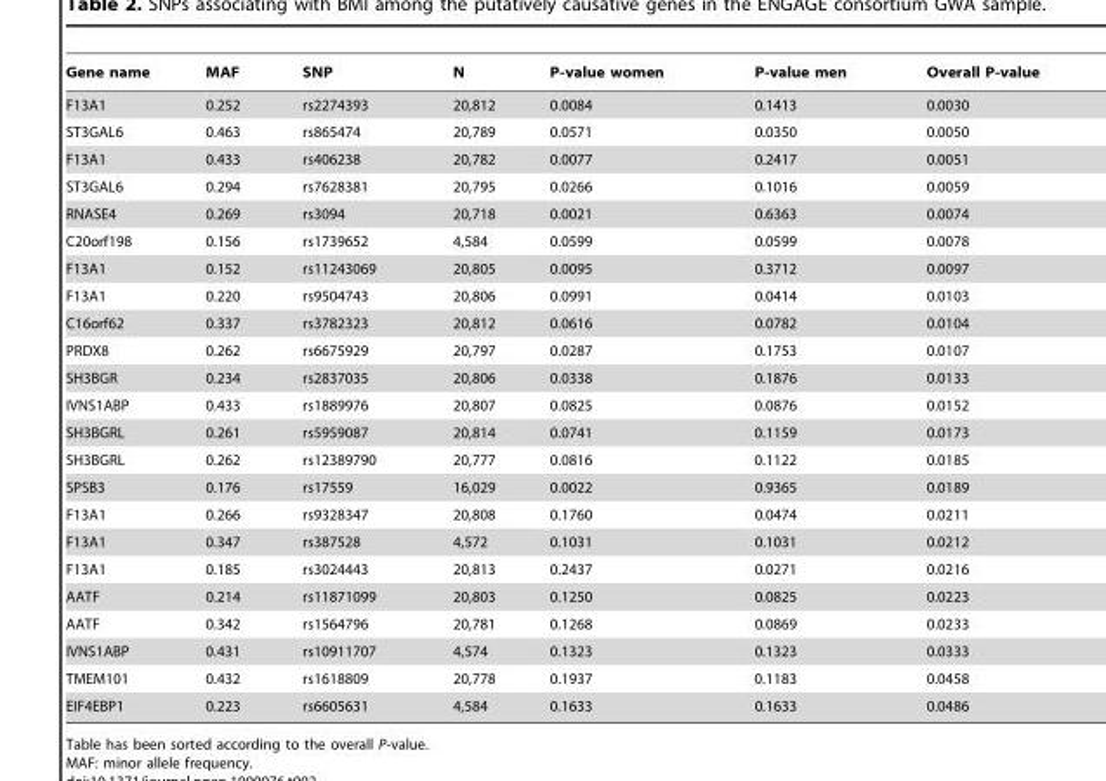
<table><thead><tr><td>Gene name</td><td>MAF</td><td>SNP</td><td>N</td><td>P-value women</td><td>P-value men</td><td>Overall P-value</td></tr></thead><tbody><tr><td>F13A1</td><td>0.252</td><td>rs2274393</td><td>20,812</td><td>0.0084</td><td>0.1413</td><td>0.0030</td></tr><tr><td>ST3GAL6</td><td>0.463</td><td>rs865474</td><td>20,789</td><td>0.0571</td><td>0.0350</td><td>0.0050</td></tr><tr><td>F13A1</td><td>0.433</td><td>rs406238</td><td>20,782</td><td>0.0077</td><td>0.2417</td><td>0.0051</td></tr><tr><td>ST3GAL6</td><td>0.294</td><td>rs7628381</td><td>20,795</td><td>0.0266</td><td>0.1016</td><td>0.0059</td></tr><tr><td>RNASE4</td><td>0.269</td><td>rs3094</td><td>20,718</td><td>0.0021</td><td>0.6363</td><td>0.0074</td></tr><tr><td>C20orf198</td><td>0.156</td><td>rs1739652</td><td>4,584</td><td>0.0599</td><td>0.0599</td><td>0.0078</td></tr><tr><td>F13A1</td><td>0.152</td><td>rs11243069</td><td>20,805</td><td>0.0095</td><td>0.3712</td><td>0.0097</td></tr><tr><td>F13A1</td><td>0.220</td><td>rs9504743</td><td>20,806</td><td>0.0991</td><td>0.0414</td><td>0.0103</td></tr><tr><td>C16orf62</td><td>0.337</td><td>rs3782323</td><td>20,812</td><td>0.0616</td><td>0.0782</td><td>0.0104</td></tr><tr><td>PRDX8</td><td>0.262</td><td>rs6675929</td><td>20,797</td><td>0.0287</td><td>0.1753</td><td>0.0107</td></tr><tr><td>SH3BGR</td><td>0.234</td><td>rs2837035</td><td>20,806</td><td>0.0338</td><td>0.1876</td><td>0.0133</td></tr><tr><td>IVNS1ABP</td><td>0.433</td><td>rs1889976</td><td>20,807</td><td>0.0825</td><td>0.0876</td><td>0.0152</td></tr><tr><td>SH3BGRL</td><td>0.261</td><td>rs5959087</td><td>20,814</td><td>0.0741</td><td>0.1159</td><td>0.0173</td></tr><tr><td>SH3BGRL</td><td>0.262</td><td>rs12389790</td><td>20,777</td><td>0.0816</td><td>0.1122</td><td>0.0185</td></tr><tr><td>SPSB3</td><td>0.176</td><td>rs17559</td><td>16,029</td><td>0.0022</td><td>0.9365</td><td>0.0189</td></tr><tr><td>F13A1</td><td>0.266</td><td>rs9328347</td><td>20,808</td><td>0.1760</td><td>0.0474</td><td>0.0211</td></tr><tr><td>F13A1</td><td>0.347</td><td>rs387528</td><td>4,572</td><td>0.1031</td><td>0.1031</td><td>0.0212</td></tr><tr><td>F13A1</td><td>0.185</td><td>rs3024443</td><td>20,813</td><td>0.2437</td><td>0.0271</td><td>0.0216</td></tr><tr><td>AATF</td><td>0.214</td><td>rs11871099</td><td>20,803</td><td>0.1250</td><td>0.0825</td><td>0.0223</td></tr><tr><td>AATF</td><td>0.342</td><td>rs1564796</td><td>20,781</td><td>0.1268</td><td>0.0869</td><td>0.0233</td></tr><tr><td>IVNS1ABP</td><td>0.431</td><td>rs10911707</td><td>4,574</td><td>0.1323</td><td>0.1323</td><td>0.0333</td></tr><tr><td>TMEM101</td><td>0.432</td><td>rs1618809</td><td>20,778</td><td>0.1937</td><td>0.1183</td><td>0.0458</td></tr><tr><td>EIF4EBP1</td><td>0.223</td><td>rs6605631</td><td>4,584</td><td>0.1633</td><td>0.1633</td><td>0.0486</td></tr></tbody></table>